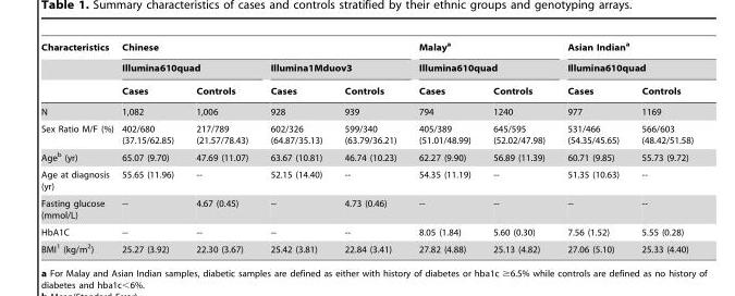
<table><thead><tr><td rowspan="3">Characteristics</td><td colspan="4">Chinese</td><td rowspan="2" colspan="2">Malay<sup>a</sup> Illumina610quad</td><td rowspan="2" colspan="2">Asian Indian<sup>a</sup> Illumina610quad</td></tr><tr><td colspan="2">Illumina610quad</td><td colspan="2">Illumina1Mduov3</td></tr><tr><td>Cases</td><td>Controls</td><td>Cases</td><td>Controls</td><td>Cases</td><td>Controls</td><td>Cases</td><td>Controls</td></tr></thead><tbody><tr><td>N</td><td>1,082</td><td>1,006</td><td>928</td><td>939</td><td>794</td><td>1240</td><td>977</td><td>1169</td></tr><tr><td>Sex Ratio M/F (%)</td><td>402/680 (37.15/62.85)</td><td>217/789 (21.57/78.43)</td><td>602/326 (64.87/35.13)</td><td>599/340 (63.79/36.21)</td><td>405/389 (51.01/48.99)</td><td>645/595 (52.02/47.98)</td><td>531/466 (54.35/45.65)</td><td>566/603 (48.42/51.58)</td></tr><tr><td>Age<sup>b</sup> (yr)</td><td>65.07 (9.70)</td><td>47.69 (11.07)</td><td>63.67 (10.81)</td><td>46.74 (10.23)</td><td>62.27 (9.90)</td><td>56.89 (11.39)</td><td>60.71 (9.85)</td><td>55.73 (9.72)</td></tr><tr><td>Age at diagnosis (yr)</td><td>55.65 (11.96)</td><td>--</td><td>52.15 (14.40)</td><td>--</td><td>54.35 (11.19)</td><td>--</td><td>51.35 (10.63)</td><td>--</td></tr><tr><td>Fasting glucose (mmol/L)</td><td>--</td><td>4.67 (0.45)</td><td>--</td><td>4.73 (0.46)</td><td>--</td><td>--</td><td>--</td><td>--</td></tr><tr><td>HbA1C</td><td>--</td><td>--</td><td>--</td><td>--</td><td>8.05 (1.84)</td><td>5.60 (0.30)</td><td>7.56 (1.52)</td><td>5.55 (0.28)</td></tr><tr><td>BMI<sup>1</sup> (kg/m<sup>2</sup>)</td><td>25.27 (3.92)</td><td>22.30 (3.67)</td><td>25.42 (3.81)</td><td>22.84 (3.41)</td><td>27.82 (4.88)</td><td>25.13 (4.82)</td><td>27.06 (5.10)</td><td>25.33 (4.40)</td></tr></tbody></table>